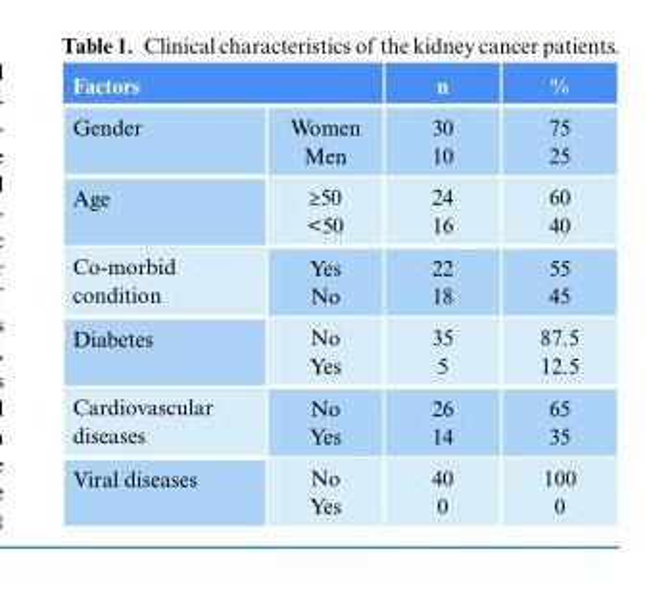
<table><thead><tr><td colspan="2">Factors</td><td rowspan="2">n 30 10</td><td rowspan="2">% 75 25</td></tr><tr><td>Gender</td><td>Women Men</td></tr></thead><tbody><tr><td>Age</td><td>≥50 &lt;50</td><td>24 16</td><td>60 40</td></tr><tr><td>Co-morbid condition</td><td>Yes No</td><td>22 18</td><td>55 45</td></tr><tr><td>Diabetes</td><td>No Yes</td><td>35 5</td><td>87.5 12.5</td></tr><tr><td>Cardiovascular diseases</td><td>No Yes</td><td>26 14</td><td>65 35</td></tr><tr><td>Viral diseases</td><td>No Yes</td><td>40 0</td><td>100 0</td></tr></tbody></table>